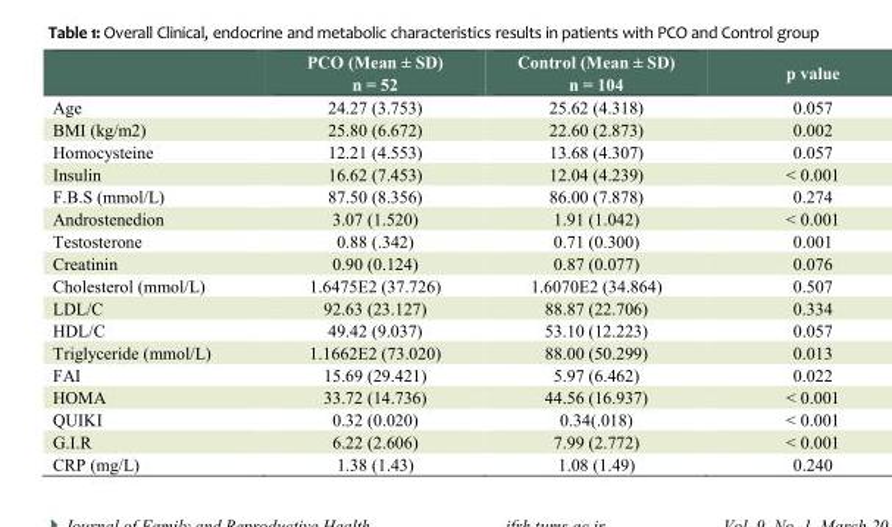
<table><thead><tr><td></td><td>PCO (Mean ± SD) n = 52</td><td>Control (Mean ± SD) n = 104</td><td>p value</td></tr></thead><tbody><tr><td>Age</td><td>24.27 (3.753)</td><td>25.62 (4.318)</td><td>0.057</td></tr><tr><td>BMI (kg/m2)</td><td>25.80 (6.672)</td><td>22.60 (2.873)</td><td>0.002</td></tr><tr><td>Homocysteine</td><td>12.21 (4.553)</td><td>13.68 (4.307)</td><td>0.057</td></tr><tr><td>Insulin</td><td>16.62 (7.453)</td><td>12.04 (4.239)</td><td>&lt; 0.001</td></tr><tr><td>F.B.S (mmol/L)</td><td>87.50 (8.356)</td><td>86.00 (7.878)</td><td>0.274</td></tr><tr><td>Androstenedion</td><td>3.07 (1.520)</td><td>1.91 (1.042)</td><td>&lt; 0.001</td></tr><tr><td>Testosterone</td><td>0.88 (.342)</td><td>0.71 (0.300)</td><td>0.001</td></tr><tr><td>Creatinin</td><td>0.90 (0.124)</td><td>0.87 (0.077)</td><td>0.076</td></tr><tr><td>Cholesterol (mmol/L)</td><td>1.6475E2 (37.726)</td><td>1.6070E2 (34.864)</td><td>0.507</td></tr><tr><td>LDL/C</td><td>92.63 (23.127)</td><td>88.87 (22.706)</td><td>0.334</td></tr><tr><td>HDL/C</td><td>49.42 (9.037)</td><td>53.10 (12.223)</td><td>0.057</td></tr><tr><td>Triglyceride (mmol/L)</td><td>1.1662E2 (73.020)</td><td>88.00 (50.299)</td><td>0.013</td></tr><tr><td>FAI</td><td>15.69 (29.421)</td><td>5.97 (6.462)</td><td>0.022</td></tr><tr><td>HOMA</td><td>33.72 (14.736)</td><td>44.56 (16.937)</td><td>&lt; 0.001</td></tr><tr><td>QUIKI</td><td>0.32 (0.020)</td><td>0.34(.018)</td><td>&lt; 0.001</td></tr><tr><td>G.I.R</td><td>6.22 (2.606)</td><td>7.99 (2.772)</td><td>&lt; 0.001</td></tr><tr><td>CRP (mg/L)</td><td>1.38 (1.43)</td><td>1.08 (1.49)</td><td>0.240</td></tr></tbody></table>